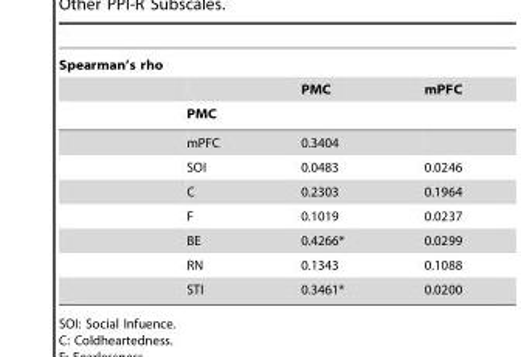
<table><thead><tr><td rowspan="3">Spearman’s rho</td><td rowspan="3">PMC</td><td rowspan="3">PMC</td><td rowspan="3">mPFC</td></tr><tr></tr><tr></tr></thead><tbody><tr><td></td><td>mPFC</td><td>0.3404</td><td></td></tr><tr><td></td><td>SOI</td><td>0.0483</td><td>0.0246</td></tr><tr><td></td><td>C</td><td>0.2303</td><td>0.1964</td></tr><tr><td></td><td>F</td><td>0.1019</td><td>0.0237</td></tr><tr><td></td><td>BE</td><td>0.4266*</td><td>0.0299</td></tr><tr><td></td><td>RN</td><td>0.1343</td><td>0.1088</td></tr><tr><td></td><td>STI</td><td>0.3461*</td><td>0.0200</td></tr></tbody></table>